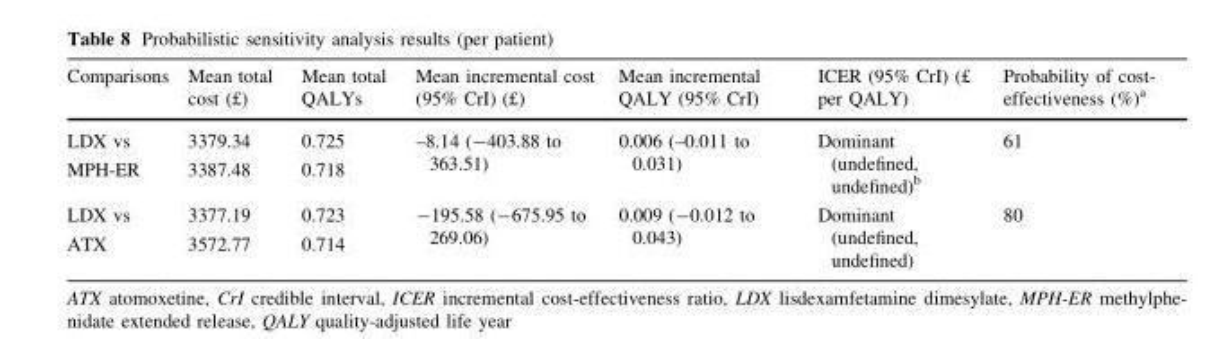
<table><thead><tr><td>Comparisons</td><td>Mean total cost (£)</td><td>Mean total QALYs</td><td>Mean incremental cost (95% CrI) (£)</td><td>Mean incremental QALY (95% CrI)</td><td>ICER (95% CrI) (£ per QALY)</td><td>Probability of cost- effectiveness (%)<sup>a</sup></td></tr></thead><tbody><tr><td>LDX vs</td><td>3379.34</td><td>0.725</td><td rowspan="2">–8.14 (-403.88 to 363.51)</td><td rowspan="2">0.006 (–0.011 to 0.031)</td><td rowspan="2">Dominant (undefined, undefined)<sup>b</sup></td><td rowspan="2">61</td></tr><tr><td>MPH-ER</td><td>3387.48</td><td>0.718</td></tr><tr><td>LDX vs</td><td>3377.19</td><td>0.723</td><td rowspan="2">-195.58 (-675.95 to 269.06)</td><td rowspan="2">0.009 (-0.012 to 0.043)</td><td rowspan="2">Dominant (undefined, undefined)</td><td rowspan="2">80</td></tr><tr><td>ATX</td><td>3572.77</td><td>0.714</td></tr></tbody></table>